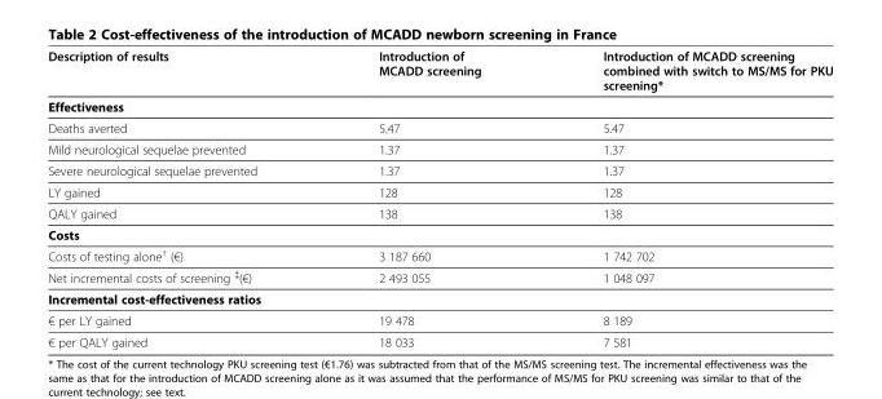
<table><thead><tr><td>Description of results</td><td>Introduction of MCADD screening</td><td>Introduction of MCADD screening combined with switch to MS/MS for PKU screening*</td></tr></thead><tbody><tr><td colspan="3">Effectiveness</td></tr><tr><td>Deaths averted</td><td>5.47</td><td>5.47</td></tr><tr><td>Mild neurological sequelae prevented</td><td>1.37</td><td>1.37</td></tr><tr><td>Severe neurological sequelae prevented</td><td>1.37</td><td>1.37</td></tr><tr><td>LY gained</td><td>128</td><td>128</td></tr><tr><td>QALY gained</td><td>138</td><td>138</td></tr><tr><td colspan="3">Costs</td></tr><tr><td>Costs of testing alone<sup>†</sup> (€)</td><td>3 187 660</td><td>1 742 702</td></tr><tr><td>Net incremental costs of screening <sup>‡</sup>(€)</td><td>2 493 055</td><td>1 048 097</td></tr><tr><td colspan="3">Incremental cost-effectiveness ratios</td></tr><tr><td>€ per LY gained</td><td>19 478</td><td>8 189</td></tr><tr><td>€ per QALY gained</td><td>18 033</td><td>7 581</td></tr></tbody></table>